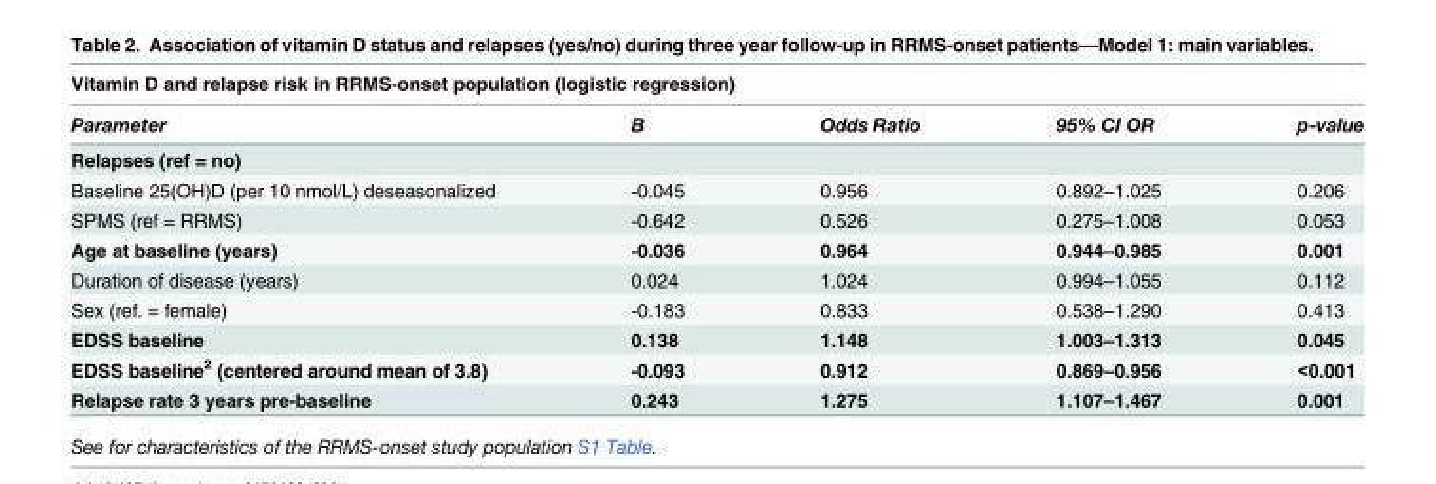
<table><thead><tr><td colspan="5">Vitamin D and relapse risk in RRMS-onset population (logistic regression)</td></tr><tr><td>Parameter</td><td>B</td><td>Odds Ratio</td><td>95% CI OR</td><td>p-value</td></tr></thead><tbody><tr><td colspan="5">Relapses (ref = no)</td></tr><tr><td>Baseline 25(OH)D (per 10 nmol/L) deseasonalized</td><td>-0.045</td><td>0.956</td><td>0.892–1.025</td><td>0.206</td></tr><tr><td>SPMS (ref = RRMS)</td><td>-0.642</td><td>0.526</td><td>0.275–1.008</td><td>0.053</td></tr><tr><td>Age at baseline (years)</td><td>-0.036</td><td>0.964</td><td>0.944–0.985</td><td>0.001</td></tr><tr><td>Duration of disease (years)</td><td>0.024</td><td>1.024</td><td>0.994–1.055</td><td>0.112</td></tr><tr><td>Sex (ref. = female)</td><td>-0.183</td><td>0.833</td><td>0.538–1.290</td><td>0.413</td></tr><tr><td>EDSS baseline</td><td>0.138</td><td>1.148</td><td>1.003–1.313</td><td>0.045</td></tr><tr><td>EDSS baseline<sup>2</sup> (centered around mean of 3.8)</td><td>-0.093</td><td>0.912</td><td>0.869–0.956</td><td>&lt;0.001</td></tr><tr><td>Relapse rate 3 years pre-baseline</td><td>0.243</td><td>1.275</td><td>1.107–1.467</td><td>0.001</td></tr></tbody></table>